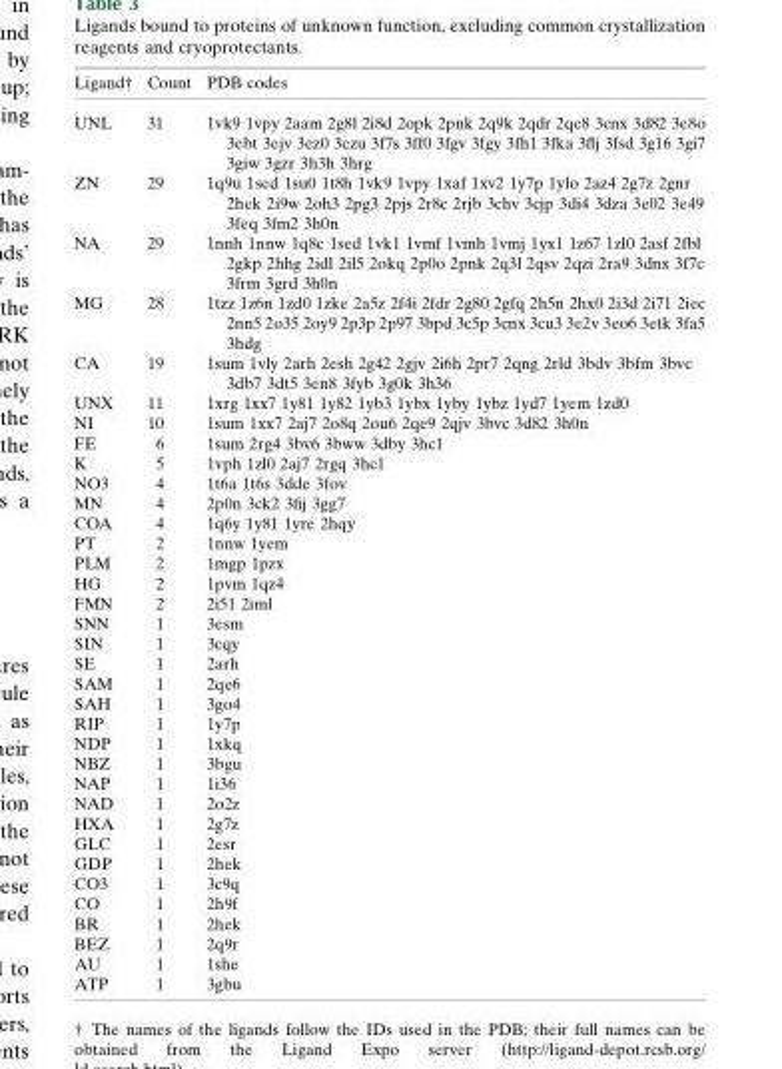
<table><thead><tr><td>Ligand†</td><td>Count</td><td>PDB codes</td></tr></thead><tbody><tr><td>UNL</td><td>31</td><td>1vk9 1vpy 2aam 2g8l 2i8d 2opk 2pnk 2q9k 2qdr 2qe8 3cnx 3d82 3e8o 3ebt 3ejv 3ez0 3ezu 3f7s 3ff0 3fgv 3fgy 3fh1 3fka 3flj 3fsd 3g16 3gi7 3giw 3gzr 3h3h 3hrg</td></tr><tr><td>ZN</td><td>29</td><td>1q9u 1sed 1su0 1t8h 1vk9 1vpy 1xaf 1xv2 1y7p 1ylo 2az4 2g7z 2gnr 2hek 2i9w 2oh3 2pg3 2pjs 2r8c 2rjb 3chv 3cjp 3di4 3dza 3e02 3e49 3feq 3fm2 3h0n</td></tr><tr><td>NA</td><td>29</td><td>1nnh 1nnw 1q8c 1sed 1vk1 1vmf 1vmh 1vmj 1yx1 1z67 1zl0 2asf 2fbl 2gkp 2hhg 2idl 2il5 2okq 2p0o 2pnk 2q3l 2qsv 2qzi 2ra9 3dnx 3f7c 3frm 3grd 3h0n</td></tr><tr><td>MG</td><td>28</td><td>1tzz 1z6n 1zd0 1zke 2a5z 2f4i 2fdr 2g80 2gfq 2h5n 2hx0 2i3d 2i71 2iec 2nn5 2o35 2oy9 2p3p 2p97 3bpd 3c5p 3cnx 3cu3 3e2v 3eo6 3etk 3fa5 3hdg</td></tr><tr><td>CA</td><td>19</td><td>1sum 1vly 2arh 2esh 2g42 2gjv 2i6h 2pr7 2qng 2rld 3bdv 3bfm 3bvc 3db7 3dt5 3en8 3fyb 3g0k 3h36</td></tr><tr><td>UNX</td><td>11</td><td>1xrg 1xx7 1y81 1y82 1yb3 1ybx 1yby 1ybz 1yd7 1yem 1zd0</td></tr><tr><td>NI</td><td>10</td><td>1sum 1xx7 2aj7 2o8q 2ou6 2qe9 2qjv 3bvc 3d82 3h0n</td></tr><tr><td>FE</td><td>6</td><td>1sum 2rg4 3bv6 3bww 3dby 3hc1</td></tr><tr><td>K</td><td>5</td><td>1vph 1zl0 2aj7 2rgq 3hc1</td></tr><tr><td>NO3</td><td>4</td><td>1t6a 1t6s 3dde 3fov</td></tr><tr><td>MN</td><td>4</td><td>2p0n 3ck2 3fij 3gg7</td></tr><tr><td>COA</td><td>4</td><td>1q6y 1y81 1yre 2hqy</td></tr><tr><td>PT</td><td>2</td><td>1nnw 1yem</td></tr><tr><td>PLM</td><td>2</td><td>1mgp 1pzx</td></tr><tr><td>HG</td><td>2</td><td>1pvm 1qz4</td></tr><tr><td>FMN</td><td>2</td><td>2i51 2iml</td></tr><tr><td>SNN</td><td>1</td><td>3esm</td></tr><tr><td>SIN</td><td>1</td><td>3cqy</td></tr><tr><td>SE</td><td>1</td><td>2arh</td></tr><tr><td>SAM</td><td>1</td><td>2qe6</td></tr><tr><td>SAH</td><td>1</td><td>3go4</td></tr><tr><td>RIP</td><td>1</td><td>1y7p</td></tr><tr><td>NDP</td><td>1</td><td>1xkq</td></tr><tr><td>NBZ</td><td>1</td><td>3bgu</td></tr><tr><td>NAP</td><td>1</td><td>1i36</td></tr><tr><td>NAD</td><td>1</td><td>2o2z</td></tr><tr><td>HXA</td><td>1</td><td>2g7z</td></tr><tr><td>GLC</td><td>1</td><td>2esr</td></tr><tr><td>GDP</td><td>1</td><td>2hek</td></tr><tr><td>CO3</td><td>1</td><td>3c9q</td></tr><tr><td>CO</td><td>1</td><td>2h9f</td></tr><tr><td>BR</td><td>1</td><td>2hek</td></tr><tr><td>BEZ</td><td>1</td><td>2q9r</td></tr><tr><td>AU</td><td>1</td><td>1she</td></tr><tr><td>ATP</td><td>1</td><td>3gbu</td></tr></tbody></table>